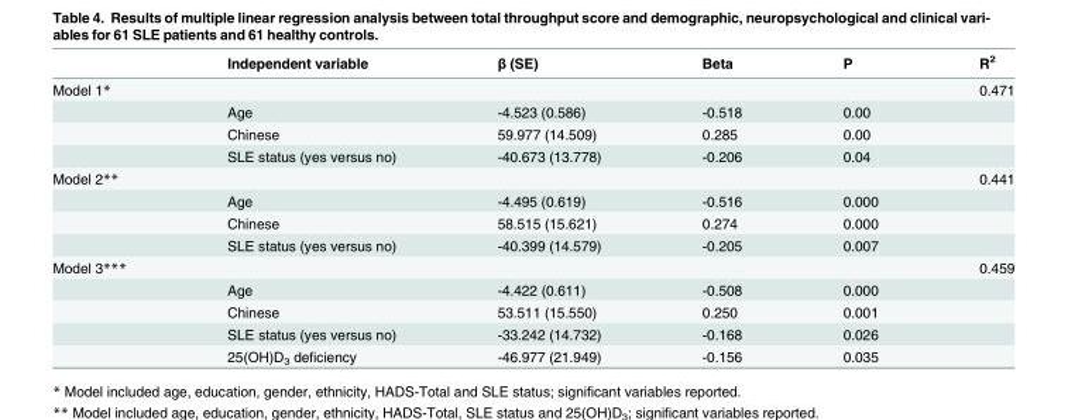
<table><thead><tr><td></td><td>Independent variable</td><td>β (SE)</td><td>Beta</td><td>P</td><td>R<sup>2</sup></td></tr></thead><tbody><tr><td rowspan="4">Model 1*</td><td></td><td></td><td></td><td></td><td>0.471</td></tr><tr><td>Age</td><td>-4.523 (0.586)</td><td>-0.518</td><td>0.00</td><td></td></tr><tr><td>Chinese</td><td>59.977 (14.509)</td><td>0.285</td><td>0.00</td><td></td></tr><tr><td>SLE status (yes versus no)</td><td>-40.673 (13.778)</td><td>-0.206</td><td>0.04</td><td></td></tr><tr><td rowspan="4">Model 2**</td><td></td><td></td><td></td><td></td><td>0.441</td></tr><tr><td>Age</td><td>-4.495 (0.619)</td><td>-0.516</td><td>0.000</td><td></td></tr><tr><td>Chinese</td><td>58.515 (15.621)</td><td>0.274</td><td>0.000</td><td></td></tr><tr><td>SLE status (yes versus no)</td><td>-40.399 (14.579)</td><td>-0.205</td><td>0.007</td><td></td></tr><tr><td rowspan="5">Model 3***</td><td></td><td></td><td></td><td></td><td>0.459</td></tr><tr><td>Age</td><td>-4.422 (0.611)</td><td>-0.508</td><td>0.000</td><td></td></tr><tr><td>Chinese</td><td>53.511 (15.550)</td><td>0.250</td><td>0.001</td><td></td></tr><tr><td>SLE status (yes versus no)</td><td>-33.242 (14.732)</td><td>-0.168</td><td>0.026</td><td></td></tr><tr><td>25(OH)D<sub>3</sub> deficiency</td><td>-46.977 (21.949)</td><td>-0.156</td><td>0.035</td><td></td></tr></tbody></table>